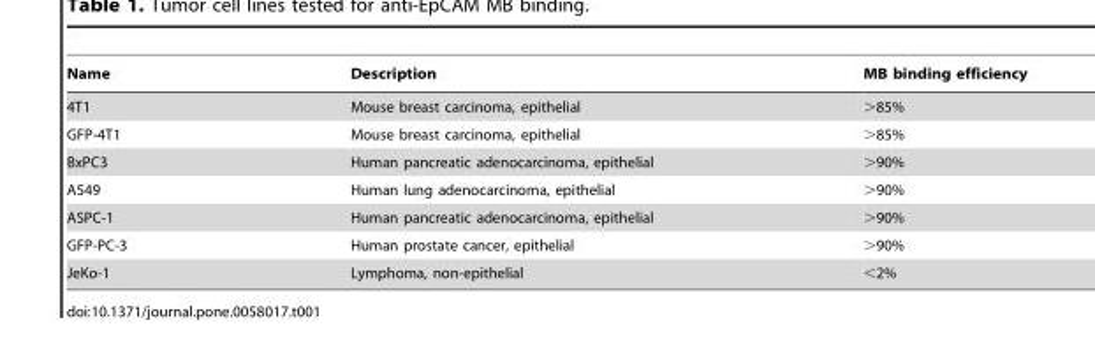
<table><thead><tr><td>Name</td><td>Description</td><td>MB binding efficiency</td></tr></thead><tbody><tr><td>4T1</td><td>Mouse breast carcinoma, epithelial</td><td>&gt;85%</td></tr><tr><td>GFP-4T1</td><td>Mouse breast carcinoma, epithelial</td><td>&gt;85%</td></tr><tr><td>BxPC3</td><td>Human pancreatic adenocarcinoma, epithelial</td><td>&gt;90%</td></tr><tr><td>A549</td><td>Human lung adenocarcinoma, epithelial</td><td>&gt;90%</td></tr><tr><td>ASPC-1</td><td>Human pancreatic adenocarcinoma, epithelial</td><td>&gt;90%</td></tr><tr><td>GFP-PC-3</td><td>Human prostate cancer, epithelial</td><td>&gt;90%</td></tr><tr><td>JeKo-1</td><td>Lymphoma, non-epithelial</td><td>&lt;2%</td></tr></tbody></table>